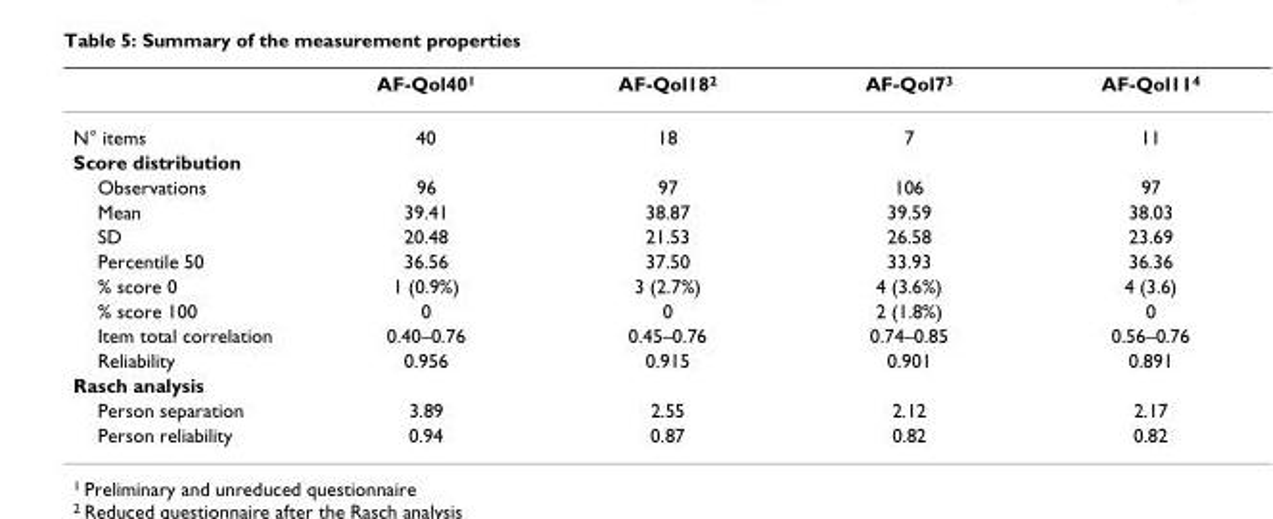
<table><thead><tr><td></td><td>AF-Qol40<sup>1</sup></td><td>AF-Qol18<sup>2</sup></td><td>AF-Qol7<sup>3</sup></td><td>AF-Qol11<sup>4</sup></td></tr></thead><tbody><tr><td>N° items</td><td>40</td><td>18</td><td>7</td><td>11</td></tr><tr><td colspan="5">Score distribution</td></tr><tr><td>Observations</td><td>96</td><td>97</td><td>106</td><td>97</td></tr><tr><td>Mean</td><td>39.41</td><td>38.87</td><td>39.59</td><td>38.03</td></tr><tr><td>SD</td><td>20.48</td><td>21.53</td><td>26.58</td><td>23.69</td></tr><tr><td>Percentile 50</td><td>36.56</td><td>37.50</td><td>33.93</td><td>36.36</td></tr><tr><td>% score 0</td><td>1 (0.9%)</td><td>3 (2.7%)</td><td>4 (3.6%)</td><td>4 (3.6)</td></tr><tr><td>% score 100</td><td>0</td><td>0</td><td>2 (1.8%)</td><td>0</td></tr><tr><td>Item total correlation</td><td>0.40–0.76</td><td>0.45–0.76</td><td>0.74–0.85</td><td>0.56–0.76</td></tr><tr><td>Reliability</td><td>0.956</td><td>0.915</td><td>0.901</td><td>0.891</td></tr><tr><td colspan="5">Rasch analysis</td></tr><tr><td>Person separation</td><td>3.89</td><td>2.55</td><td>2.12</td><td>2.17</td></tr><tr><td>Person reliability</td><td>0.94</td><td>0.87</td><td>0.82</td><td>0.82</td></tr></tbody></table>